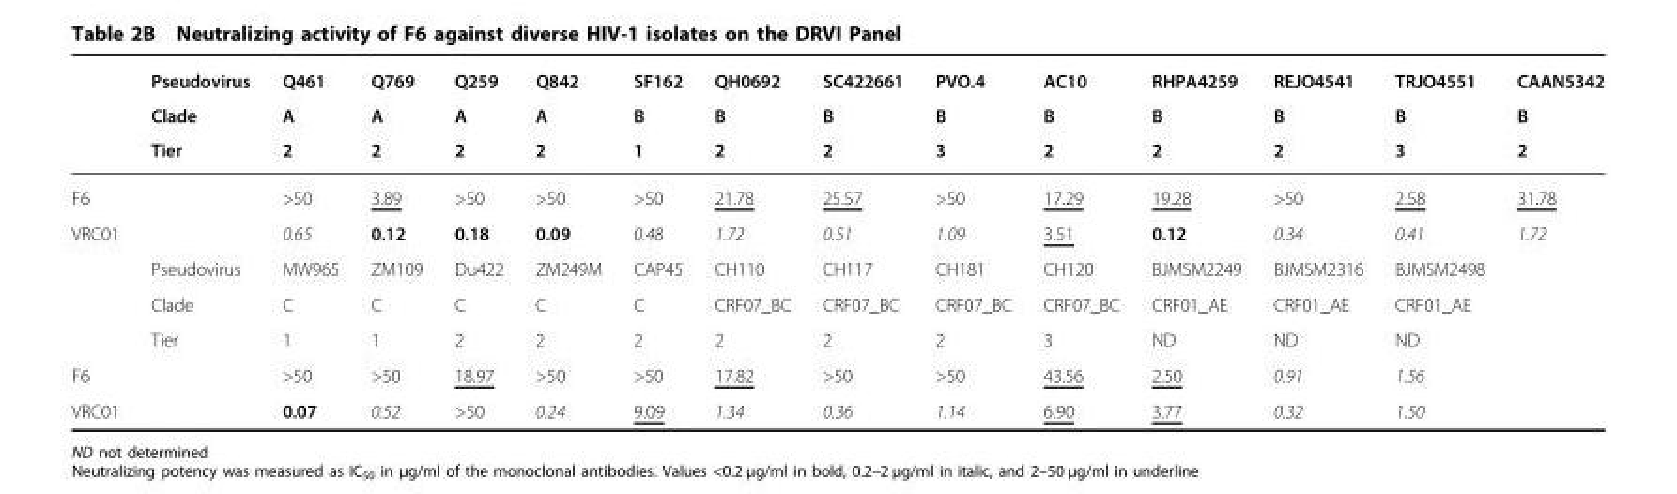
<table><thead><tr><td rowspan="3"></td><td rowspan="3">Pseudovirus Clade Tier</td><td rowspan="3">Q461 A 2</td><td rowspan="3">Q769 A 2</td><td rowspan="3">Q259 A 2</td><td rowspan="3">Q842 A 2</td><td rowspan="3">SF162 B 1</td><td rowspan="3">QH0692 B 2</td><td rowspan="3">SC422661 B 2</td><td rowspan="3">PVO.4 B 3</td><td rowspan="3">AC10 B 2</td><td rowspan="3">RHPA4259 B 2</td><td rowspan="3">REJO4541 B 2</td><td rowspan="3">TRJO4551 B 3</td><td rowspan="3">CAAN5342 B 2</td></tr><tr></tr><tr></tr></thead><tbody><tr><td>F6</td><td></td><td>&gt;50</td><td>3.89</td><td>&gt;50</td><td>&gt;50</td><td>&gt;50</td><td>21.78</td><td>25.57</td><td>&gt;50</td><td>17.29</td><td>19.28</td><td>&gt;50</td><td>2.58</td><td>31.78</td></tr><tr><td rowspan="4">VRC01</td><td></td><td>0.65</td><td>0.12</td><td>0.18</td><td>0.09</td><td>0.48</td><td>1.72</td><td>0.51</td><td>1.09</td><td>3.51</td><td>0.12</td><td>0.34</td><td>0.41</td><td>1.72</td></tr><tr><td>Pseudovirus</td><td>MW965</td><td>ZM109</td><td>Du422</td><td>ZM249M</td><td>CAP45</td><td>CH110</td><td>CH117</td><td>CH181</td><td>CH120</td><td>BJMSM2249</td><td>BJMSM2316</td><td>BJMSM2498</td><td></td></tr><tr><td>Clade</td><td>C</td><td>C</td><td>C</td><td>C</td><td>C</td><td>CRF07_BC</td><td>CRF07_BC</td><td>CRF07_BC</td><td>CRF07_BC</td><td>CRF01_AE</td><td>CRF01_AE</td><td>CRF01_AE</td><td></td></tr><tr><td>Tier</td><td>1</td><td>1</td><td>2</td><td>2</td><td>2</td><td>2</td><td>2</td><td>2</td><td>3</td><td>ND</td><td>ND</td><td>ND</td><td></td></tr><tr><td>F6</td><td></td><td>&gt;50</td><td>&gt;50</td><td>18.97</td><td>&gt;50</td><td>&gt;50</td><td>17.82</td><td>&gt;50</td><td>&gt;50</td><td>43.56</td><td>2.50</td><td>0.91</td><td>1.56</td><td></td></tr><tr><td>VRC01</td><td></td><td>0.07</td><td>0.52</td><td>&gt;50</td><td>0.24</td><td>9.09</td><td>1.34</td><td>0.36</td><td>1.14</td><td>6.90</td><td>3.77</td><td>0.32</td><td>1.50</td><td></td></tr></tbody></table>